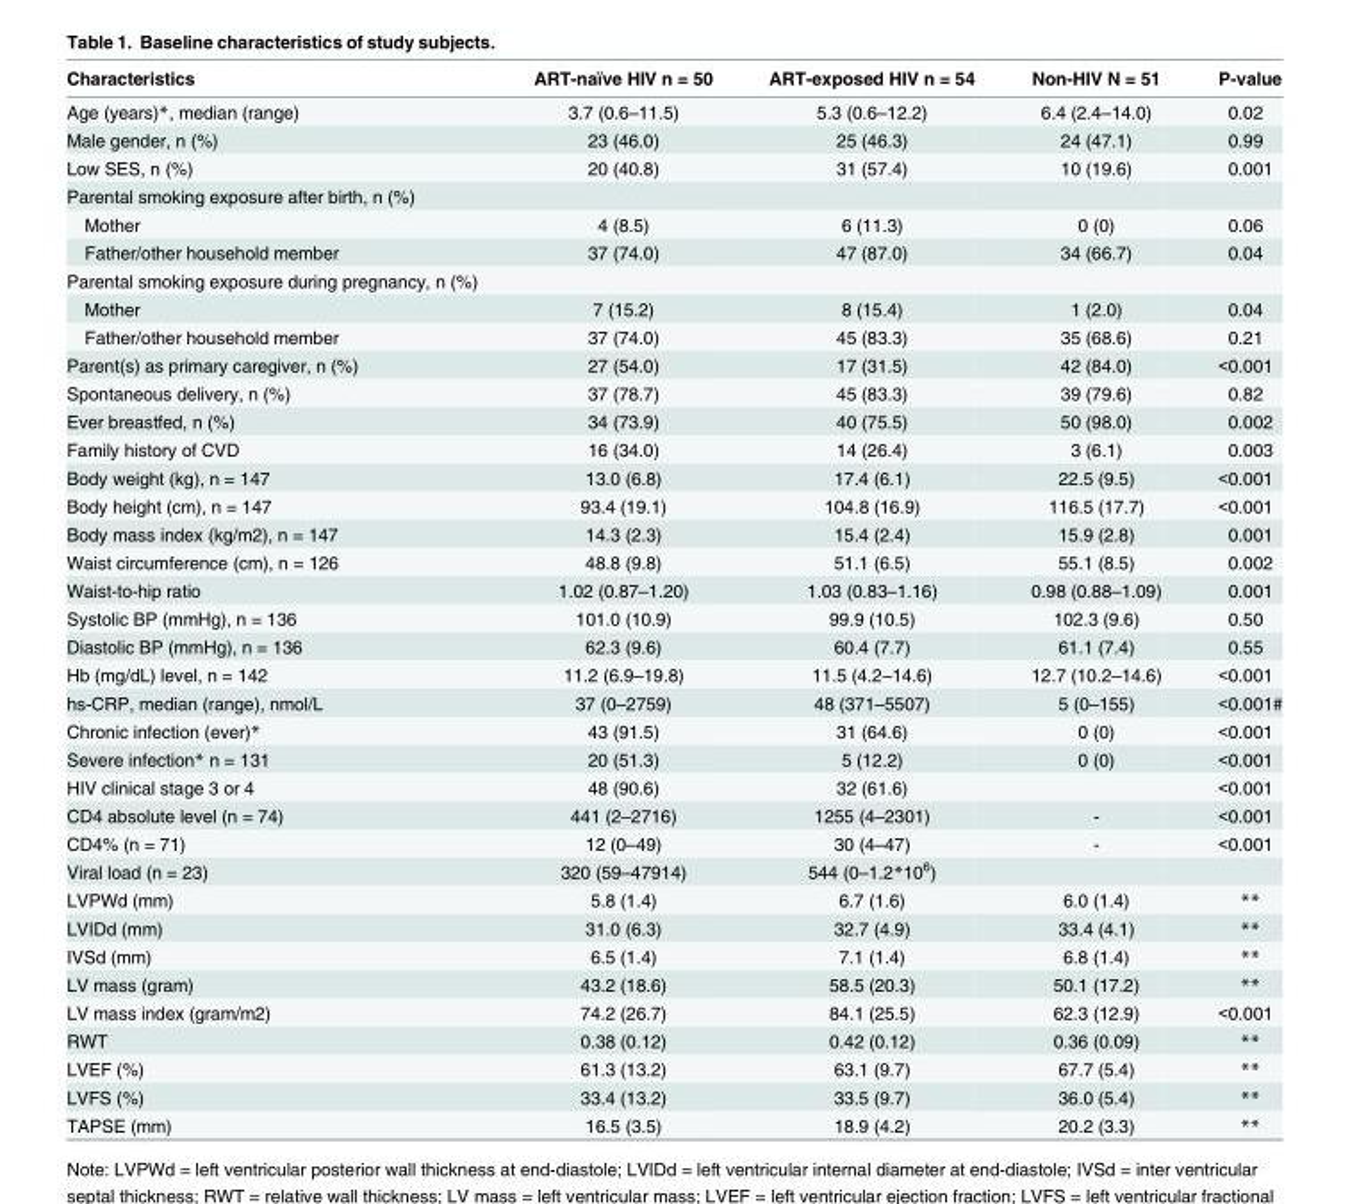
<table><thead><tr><td>Characteristics</td><td>ART-naïve HIV n = 50</td><td>ART-exposed HIV n = 54</td><td>Non-HIV N = 51</td><td>P-value</td></tr></thead><tbody><tr><td>Age (years)*, median (range)</td><td>3.7 (0.6–11.5)</td><td>5.3 (0.6–12.2)</td><td>6.4 (2.4–14.0)</td><td>0.02</td></tr><tr><td>Male gender, n (%)</td><td>23 (46.0)</td><td>25 (46.3)</td><td>24 (47.1)</td><td>0.99</td></tr><tr><td>Low SES, n (%)</td><td>20 (40.8)</td><td>31 (57.4)</td><td>10 (19.6)</td><td>0.001</td></tr><tr><td colspan="5">Parental smoking exposure after birth, n (%)</td></tr><tr><td>Mother</td><td>4 (8.5)</td><td>6 (11.3)</td><td>0 (0)</td><td>0.06</td></tr><tr><td>Father/other household member</td><td>37 (74.0)</td><td>47 (87.0)</td><td>34 (66.7)</td><td>0.04</td></tr><tr><td colspan="5">Parental smoking exposure during pregnancy, n (%)</td></tr><tr><td>Mother</td><td>7 (15.2)</td><td>8 (15.4)</td><td>1 (2.0)</td><td>0.04</td></tr><tr><td>Father/other household member</td><td>37 (74.0)</td><td>45 (83.3)</td><td>35 (68.6)</td><td>0.21</td></tr><tr><td>Parent(s) as primary caregiver, n (%)</td><td>27 (54.0)</td><td>17 (31.5)</td><td>42 (84.0)</td><td>&lt;0.001</td></tr><tr><td>Spontaneous delivery, n (%)</td><td>37 (78.7)</td><td>45 (83.3)</td><td>39 (79.6)</td><td>0.82</td></tr><tr><td>Ever breastfed, n (%)</td><td>34 (73.9)</td><td>40 (75.5)</td><td>50 (98.0)</td><td>0.002</td></tr><tr><td>Family history of CVD</td><td>16 (34.0)</td><td>14 (26.4)</td><td>3 (6.1)</td><td>0.003</td></tr><tr><td>Body weight (kg), n = 147</td><td>13.0 (6.8)</td><td>17.4 (6.1)</td><td>22.5 (9.5)</td><td>&lt;0.001</td></tr><tr><td>Body height (cm), n = 147</td><td>93.4 (19.1)</td><td>104.8 (16.9)</td><td>116.5 (17.7)</td><td>&lt;0.001</td></tr><tr><td>Body mass index (kg/m2), n = 147</td><td>14.3 (2.3)</td><td>15.4 (2.4)</td><td>15.9 (2.8)</td><td>0.001</td></tr><tr><td>Waist circumference (cm), n = 126</td><td>48.8 (9.8)</td><td>51.1 (6.5)</td><td>55.1 (8.5)</td><td>0.002</td></tr><tr><td>Waist-to-hip ratio</td><td>1.02 (0.87–1.20)</td><td>1.03 (0.83–1.16)</td><td>0.98 (0.88–1.09)</td><td>0.001</td></tr><tr><td>Systolic BP (mmHg), n = 136</td><td>101.0 (10.9)</td><td>99.9 (10.5)</td><td>102.3 (9.6)</td><td>0.50</td></tr><tr><td>Diastolic BP (mmHg), n = 136</td><td>62.3 (9.6)</td><td>60.4 (7.7)</td><td>61.1 (7.4)</td><td>0.55</td></tr><tr><td>Hb (mg/dL) level, n = 142</td><td>11.2 (6.9–19.8)</td><td>11.5 (4.2–14.6)</td><td>12.7 (10.2–14.6)</td><td>&lt;0.001</td></tr><tr><td>hs-CRP, median (range), nmol/L</td><td>37 (0–2759)</td><td>48 (371–5507)</td><td>5 (0–155)</td><td>&lt;0.001#</td></tr><tr><td>Chronic infection (ever)*</td><td>43 (91.5)</td><td>31 (64.6)</td><td>0 (0)</td><td>&lt;0.001</td></tr><tr><td>Severe infection* n = 131</td><td>20 (51.3)</td><td>5 (12.2)</td><td>0 (0)</td><td>&lt;0.001</td></tr><tr><td>HIV clinical stage 3 or 4</td><td>48 (90.6)</td><td>32 (61.6)</td><td></td><td>&lt;0.001</td></tr><tr><td>CD4 absolute level (n = 74)</td><td>441 (2–2716)</td><td>1255 (4–2301)</td><td>-</td><td>&lt;0.001</td></tr><tr><td>CD4% (n = 71)</td><td>12 (0–49)</td><td>30 (4–47)</td><td>-</td><td>&lt;0.001</td></tr><tr><td>Viral load (n = 23)</td><td>320 (59–47914)</td><td>544 (0–1.2*10<sup>6</sup>)</td><td></td><td></td></tr><tr><td>LVPWd (mm)</td><td>5.8 (1.4)</td><td>6.7 (1.6)</td><td>6.0 (1.4)</td><td>**</td></tr><tr><td>LVIDd (mm)</td><td>31.0 (6.3)</td><td>32.7 (4.9)</td><td>33.4 (4.1)</td><td>**</td></tr><tr><td>IVSd (mm)</td><td>6.5 (1.4)</td><td>7.1 (1.4)</td><td>6.8 (1.4)</td><td>**</td></tr><tr><td>LV mass (gram)</td><td>43.2 (18.6)</td><td>58.5 (20.3)</td><td>50.1 (17.2)</td><td>**</td></tr><tr><td>LV mass index (gram/m2)</td><td>74.2 (26.7)</td><td>84.1 (25.5)</td><td>62.3 (12.9)</td><td>&lt;0.001</td></tr><tr><td>RWT</td><td>0.38 (0.12)</td><td>0.42 (0.12)</td><td>0.36 (0.09)</td><td>**</td></tr><tr><td>LVEF (%)</td><td>61.3 (13.2)</td><td>63.1 (9.7)</td><td>67.7 (5.4)</td><td>**</td></tr><tr><td>LVFS (%)</td><td>33.4 (13.2)</td><td>33.5 (9.7)</td><td>36.0 (5.4)</td><td>**</td></tr><tr><td>TAPSE (mm)</td><td>16.5 (3.5)</td><td>18.9 (4.2)</td><td>20.2 (3.3)</td><td>**</td></tr></tbody></table>